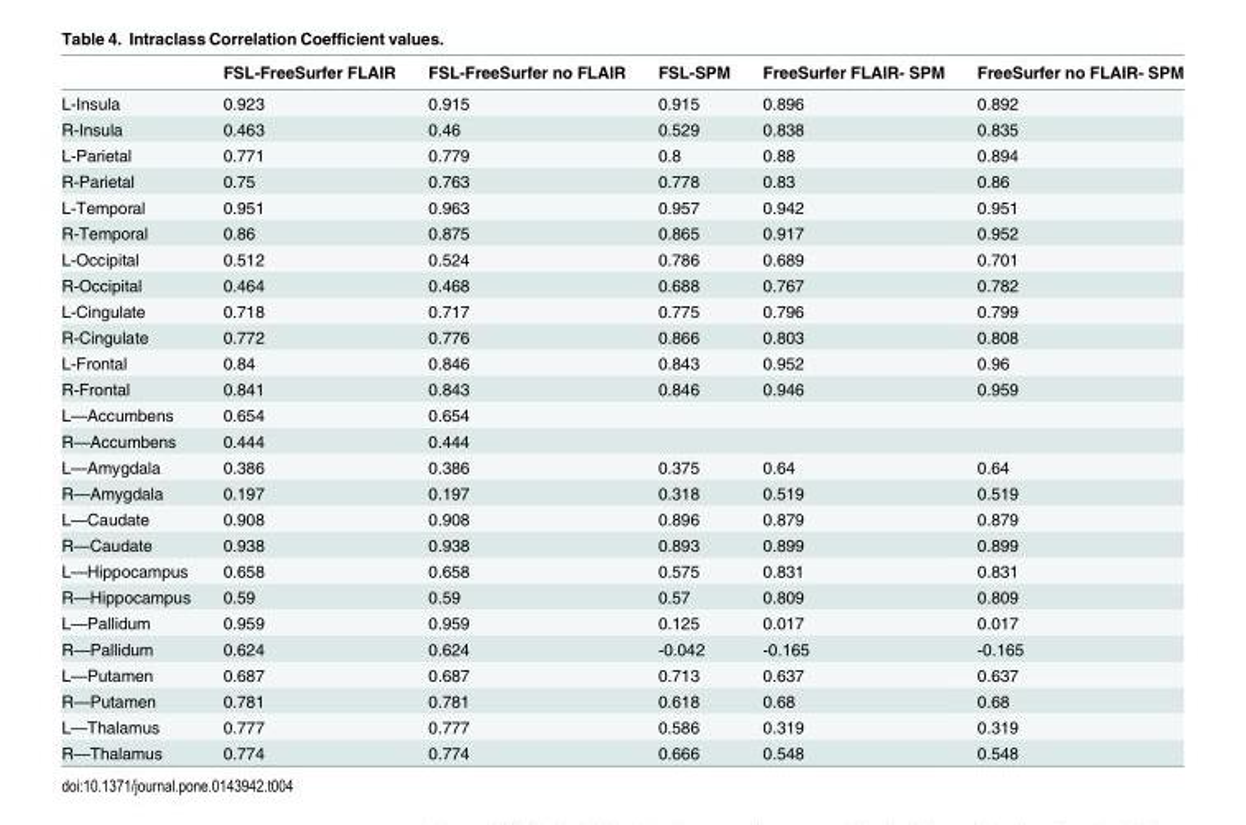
<table><thead><tr><td></td><td>FSL-FreeSurfer FLAIR</td><td>FSL-FreeSurfer no FLAIR</td><td>FSL-SPM</td><td>FreeSurfer FLAIR- SPM</td><td>FreeSurfer no FLAIR- SPM</td></tr></thead><tbody><tr><td>L-Insula</td><td>0.923</td><td>0.915</td><td>0.915</td><td>0.896</td><td>0.892</td></tr><tr><td>R-Insula</td><td>0.463</td><td>0.46</td><td>0.529</td><td>0.838</td><td>0.835</td></tr><tr><td>L-Parietal</td><td>0.771</td><td>0.779</td><td>0.8</td><td>0.88</td><td>0.894</td></tr><tr><td>R-Parietal</td><td>0.75</td><td>0.763</td><td>0.778</td><td>0.83</td><td>0.86</td></tr><tr><td>L-Temporal</td><td>0.951</td><td>0.963</td><td>0.957</td><td>0.942</td><td>0.951</td></tr><tr><td>R-Temporal</td><td>0.86</td><td>0.875</td><td>0.865</td><td>0.917</td><td>0.952</td></tr><tr><td>L-Occipital</td><td>0.512</td><td>0.524</td><td>0.786</td><td>0.689</td><td>0.701</td></tr><tr><td>R-Occipital</td><td>0.464</td><td>0.468</td><td>0.688</td><td>0.767</td><td>0.782</td></tr><tr><td>L-Cingulate</td><td>0.718</td><td>0.717</td><td>0.775</td><td>0.796</td><td>0.799</td></tr><tr><td>R-Cingulate</td><td>0.772</td><td>0.776</td><td>0.866</td><td>0.803</td><td>0.808</td></tr><tr><td>L-Frontal</td><td>0.84</td><td>0.846</td><td>0.843</td><td>0.952</td><td>0.96</td></tr><tr><td>R-Frontal</td><td>0.841</td><td>0.843</td><td>0.846</td><td>0.946</td><td>0.959</td></tr><tr><td>L—Accumbens</td><td>0.654</td><td>0.654</td><td></td><td></td><td></td></tr><tr><td>R—Accumbens</td><td>0.444</td><td>0.444</td><td></td><td></td><td></td></tr><tr><td>L—Amygdala</td><td>0.386</td><td>0.386</td><td>0.375</td><td>0.64</td><td>0.64</td></tr><tr><td>R—Amygdala</td><td>0.197</td><td>0.197</td><td>0.318</td><td>0.519</td><td>0.519</td></tr><tr><td>L—Caudate</td><td>0.908</td><td>0.908</td><td>0.896</td><td>0.879</td><td>0.879</td></tr><tr><td>R—Caudate</td><td>0.938</td><td>0.938</td><td>0.893</td><td>0.899</td><td>0.899</td></tr><tr><td>L—Hippocampus</td><td>0.658</td><td>0.658</td><td>0.575</td><td>0.831</td><td>0.831</td></tr><tr><td>R—Hippocampus</td><td>0.59</td><td>0.59</td><td>0.57</td><td>0.809</td><td>0.809</td></tr><tr><td>L—Pallidum</td><td>0.959</td><td>0.959</td><td>0.125</td><td>0.017</td><td>0.017</td></tr><tr><td>R—Pallidum</td><td>0.624</td><td>0.624</td><td>-0.042</td><td>-0.165</td><td>-0.165</td></tr><tr><td>L—Putamen</td><td>0.687</td><td>0.687</td><td>0.713</td><td>0.637</td><td>0.637</td></tr><tr><td>R—Putamen</td><td>0.781</td><td>0.781</td><td>0.618</td><td>0.68</td><td>0.68</td></tr><tr><td>L—Thalamus</td><td>0.777</td><td>0.777</td><td>0.586</td><td>0.319</td><td>0.319</td></tr><tr><td>R—Thalamus</td><td>0.774</td><td>0.774</td><td>0.666</td><td>0.548</td><td>0.548</td></tr></tbody></table>